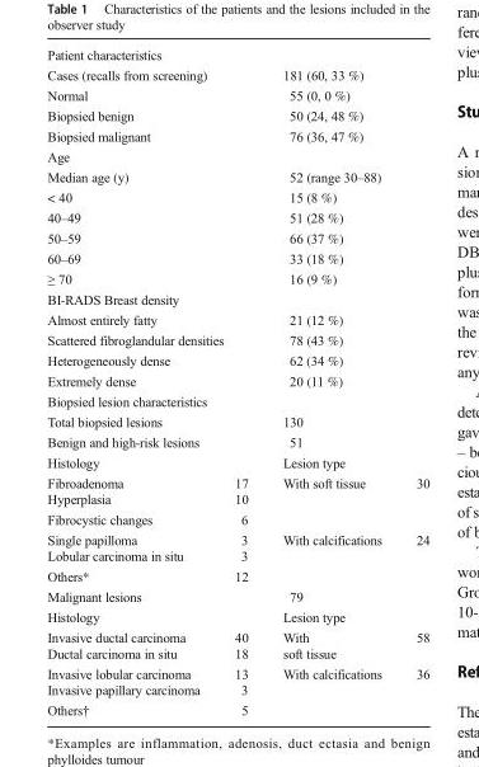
<table><tbody><tr><td colspan="4">Patient characteristics</td></tr><tr><td colspan="2">Cases (recalls from screening)</td><td colspan="2">181 (60, 33 %)</td></tr><tr><td colspan="2">Normal</td><td colspan="2">55 (0, 0 %)</td></tr><tr><td colspan="2">Biopsied benign</td><td colspan="2">50 (24, 48 %)</td></tr><tr><td colspan="2">Biopsied malignant</td><td colspan="2">76 (36, 47 %)</td></tr><tr><td colspan="4">Age</td></tr><tr><td colspan="2">Median age (y)</td><td colspan="2">52 (range 30–88)</td></tr><tr><td colspan="2">&lt; 40</td><td colspan="2">15 (8 %)</td></tr><tr><td colspan="2">40–49</td><td colspan="2">51 (28 %)</td></tr><tr><td colspan="2">50–59</td><td colspan="2">66 (37 %)</td></tr><tr><td colspan="2">60–69</td><td colspan="2">33 (18 %)</td></tr><tr><td colspan="2">≥ 70</td><td colspan="2">16 (9 %)</td></tr><tr><td colspan="4">BI-RADS Breast density</td></tr><tr><td colspan="2">Almost entirely fatty</td><td colspan="2">21 (12 %)</td></tr><tr><td colspan="2">Scattered fibroglandular densities</td><td colspan="2">78 (43 %)</td></tr><tr><td colspan="2">Heterogeneously dense</td><td colspan="2">62 (34 %)</td></tr><tr><td colspan="2">Extremely dense</td><td colspan="2">20 (11 %)</td></tr><tr><td colspan="4">Biopsied lesion characteristics</td></tr><tr><td colspan="2">Total biopsied lesions</td><td colspan="2">130</td></tr><tr><td colspan="2">Benign and high-risk lesions</td><td colspan="2">51</td></tr><tr><td colspan="2">Histology</td><td colspan="2">Lesion type</td></tr><tr><td>Fibroadenoma</td><td>17</td><td rowspan="3">With soft tissue</td><td rowspan="3">30</td></tr><tr><td>Hyperplasia</td><td>10</td></tr><tr><td>Fibrocystic changes</td><td>6</td></tr><tr><td>Single papilloma</td><td>3</td><td rowspan="3">With calcifications</td><td rowspan="3">24</td></tr><tr><td>Lobular carcinoma in situ</td><td>3</td></tr><tr><td>Others*</td><td>12</td></tr><tr><td colspan="2">Malignant lesions</td><td colspan="2">79</td></tr><tr><td colspan="2">Histology</td><td colspan="2">Lesion type</td></tr><tr><td>Invasive ductal carcinoma</td><td>40</td><td rowspan="2">With soft tissue</td><td rowspan="2">58</td></tr><tr><td>Ductal carcinoma in situ</td><td>18</td></tr><tr><td>Invasive lobular carcinoma</td><td>13</td><td rowspan="3">With calcifications</td><td rowspan="3">36</td></tr><tr><td>Invasive papillary carcinoma</td><td>3</td></tr><tr><td>Others†</td><td>5</td></tr></tbody></table>